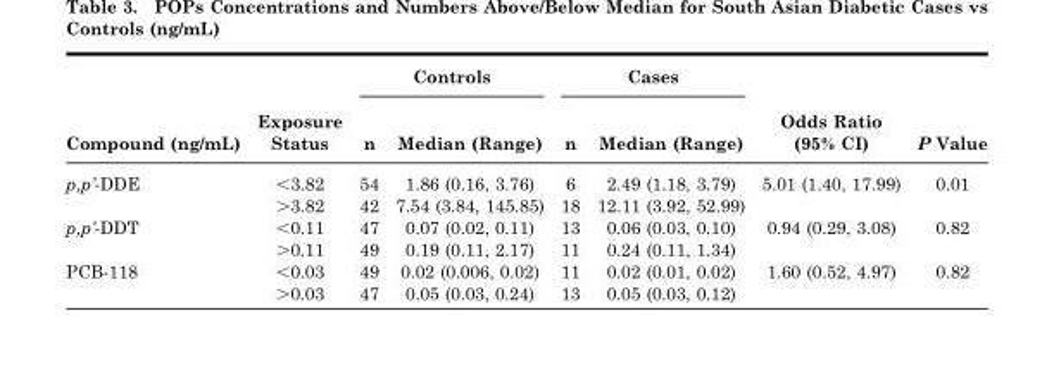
<table><thead><tr><td rowspan="2">Compound (ng/mL)</td><td rowspan="2">Exposure Status</td><td colspan="2">Controls</td><td colspan="2">Cases</td><td rowspan="2">Odds Ratio (95% CI)</td><td rowspan="2">P Value</td></tr><tr><td>n</td><td>Median (Range)</td><td>n</td><td>Median (Range)</td></tr></thead><tbody><tr><td rowspan="2">p,p’-DDE</td><td>&lt;3.82</td><td>54</td><td>1.86 (0.16, 3.76)</td><td>6</td><td>2.49 (1.18, 3.79)</td><td rowspan="2">5.01 (1.40, 17.99)</td><td rowspan="2">0.01</td></tr><tr><td>&gt;3.82</td><td>42</td><td>7.54 (3.84, 145.85)</td><td>18</td><td>12.11 (3.92, 52.99)</td></tr><tr><td rowspan="2">p,p’-DDT</td><td>&lt;0.11</td><td>47</td><td>0.07 (0.02, 0.11)</td><td>13</td><td>0.06 (0.03, 0.10)</td><td rowspan="2">0.94 (0.29, 3.08)</td><td rowspan="2">0.82</td></tr><tr><td>&gt;0.11</td><td>49</td><td>0.19 (0.11, 2.17)</td><td>11</td><td>0.24 (0.11, 1.34)</td></tr><tr><td rowspan="2">PCB-118</td><td>&lt;0.03</td><td>49</td><td>0.02 (0.006, 0.02)</td><td>11</td><td>0.02 (0.01, 0.02)</td><td rowspan="2">1.60 (0.52, 4.97)</td><td rowspan="2">0.82</td></tr><tr><td>&gt;0.03</td><td>47</td><td>0.05 (0.03, 0.24)</td><td>13</td><td>0.05 (0.03, 0.12)</td></tr></tbody></table>